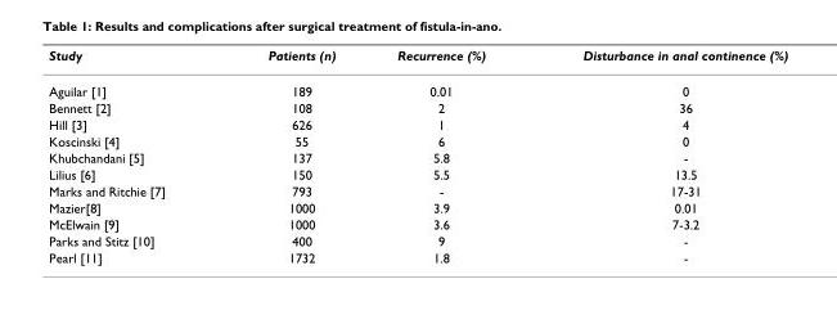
<table><thead><tr><td>Study</td><td>Patients (n)</td><td>Recurrence (%)</td><td>Disturbance in anal continence (%)</td></tr></thead><tbody><tr><td>Aguilar [1]</td><td>189</td><td>0.01</td><td>0</td></tr><tr><td>Bennett [2]</td><td>108</td><td>2</td><td>36</td></tr><tr><td>Hill [3]</td><td>626</td><td>1</td><td>4</td></tr><tr><td>Koscinski [4]</td><td>55</td><td>6</td><td>0</td></tr><tr><td>Khubchandani [5]</td><td>137</td><td>5.8</td><td>-</td></tr><tr><td>Lilius [6]</td><td>150</td><td>5.5</td><td>13.5</td></tr><tr><td>Marks and Ritchie [7]</td><td>793</td><td>-</td><td>17-31</td></tr><tr><td>Mazier[8]</td><td>1000</td><td>3.9</td><td>0.01</td></tr><tr><td>McElwain [9]</td><td>1000</td><td>3.6</td><td>7-3.2</td></tr><tr><td>Parks and Stitz [10]</td><td>400</td><td>9</td><td>-</td></tr><tr><td>Pearl [11]</td><td>1732</td><td>1.8</td><td>-</td></tr></tbody></table>